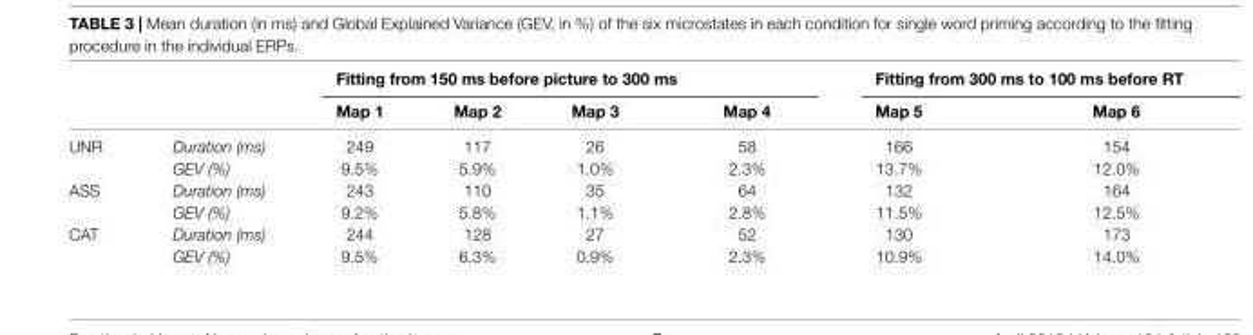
<table><thead><tr><td rowspan="2"></td><td rowspan="2"></td><td colspan="4">Fitting from 150 ms before picture to 300 ms</td><td colspan="2">Fitting from 300 ms to 100 ms before RT</td></tr><tr><td>Map 1</td><td>Map 2</td><td>Map 3</td><td>Map 4</td><td>Map 5</td><td>Map 6</td></tr></thead><tbody><tr><td rowspan="2">UNR</td><td>Duration (ms)</td><td>249</td><td>117</td><td>26</td><td>58</td><td>166</td><td>154</td></tr><tr><td>GEV (%)</td><td>9.5%</td><td>5.9%</td><td>1.0%</td><td>2.3%</td><td>13.7%</td><td>12.0%</td></tr><tr><td rowspan="2">ASS</td><td>Duration (ms)</td><td>243</td><td>110</td><td>35</td><td>64</td><td>132</td><td>164</td></tr><tr><td>GEV (%)</td><td>9.2%</td><td>5.8%</td><td>1.1%</td><td>2.8%</td><td>11.5%</td><td>12.5%</td></tr><tr><td rowspan="2">CAT</td><td>Duration (ms)</td><td>244</td><td>128</td><td>27</td><td>52</td><td>130</td><td>173</td></tr><tr><td>GEV (%)</td><td>9.5%</td><td>6.3%</td><td>0.9%</td><td>2.3%</td><td>10.9%</td><td>14.0%</td></tr></tbody></table>